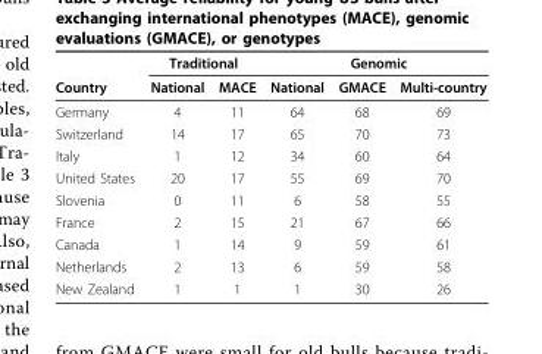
<table><thead><tr><td rowspan="2">Country</td><td colspan="2">Traditional</td><td colspan="3">Genomic</td></tr><tr><td>National</td><td>MACE</td><td>National</td><td>GMACE</td><td>Multi-country</td></tr></thead><tbody><tr><td>Germany</td><td>4</td><td>11</td><td>64</td><td>68</td><td>69</td></tr><tr><td>Switzerland</td><td>14</td><td>17</td><td>65</td><td>70</td><td>73</td></tr><tr><td>Italy</td><td>1</td><td>12</td><td>34</td><td>60</td><td>64</td></tr><tr><td>United States</td><td>20</td><td>17</td><td>55</td><td>69</td><td>70</td></tr><tr><td>Slovenia</td><td>0</td><td>11</td><td>6</td><td>58</td><td>55</td></tr><tr><td>France</td><td>2</td><td>15</td><td>21</td><td>67</td><td>66</td></tr><tr><td>Canada</td><td>1</td><td>14</td><td>9</td><td>59</td><td>61</td></tr><tr><td>Netherlands</td><td>2</td><td>13</td><td>6</td><td>59</td><td>58</td></tr><tr><td>New Zealand</td><td>1</td><td>1</td><td>1</td><td>30</td><td>26</td></tr></tbody></table>